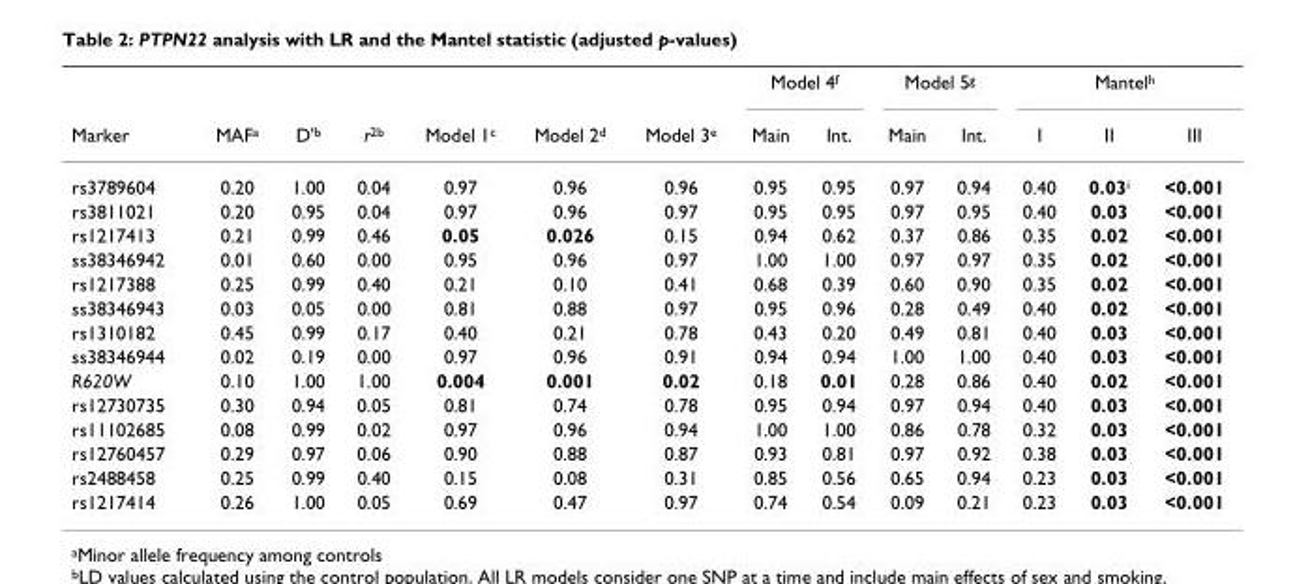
<table><thead><tr><td rowspan="2">Marker</td><td rowspan="2">MAF<sup>a</sup></td><td rowspan="2">D&#x27;<sup>b</sup></td><td rowspan="2">r<sup>2b</sup></td><td rowspan="2">Model 1<sup>c</sup></td><td rowspan="2">Model 2<sup>d</sup></td><td rowspan="2">Model 3<sup>e</sup></td><td colspan="2">Model 4<sup>f</sup></td><td colspan="2">Model 5<sup>g</sup></td><td colspan="3">Mantel<sup>h</sup></td></tr><tr><td>Main</td><td>Int.</td><td>Main</td><td>Int.</td><td>I</td><td>II</td><td>III</td></tr></thead><tbody><tr><td>rs3789604</td><td>0.20</td><td>1.00</td><td>0.04</td><td>0.97</td><td>0.96</td><td>0.96</td><td>0.95</td><td>0.95</td><td>0.97</td><td>0.94</td><td>0.40</td><td>0.03<sup>i</sup></td><td>&lt;0.001</td></tr><tr><td>rs3811021</td><td>0.20</td><td>0.95</td><td>0.04</td><td>0.97</td><td>0.96</td><td>0.97</td><td>0.95</td><td>0.95</td><td>0.97</td><td>0.95</td><td>0.40</td><td>0.03</td><td>&lt;0.001</td></tr><tr><td>rs1217413</td><td>0.21</td><td>0.99</td><td>0.46</td><td>0.05</td><td>0.026</td><td>0.15</td><td>0.94</td><td>0.62</td><td>0.37</td><td>0.86</td><td>0.35</td><td>0.02</td><td>&lt;0.001</td></tr><tr><td>ss38346942</td><td>0.01</td><td>0.60</td><td>0.00</td><td>0.95</td><td>0.96</td><td>0.97</td><td>1.00</td><td>1.00</td><td>0.97</td><td>0.97</td><td>0.35</td><td>0.02</td><td>&lt;0.001</td></tr><tr><td>rs1217388</td><td>0.25</td><td>0.99</td><td>0.40</td><td>0.21</td><td>0.10</td><td>0.41</td><td>0.68</td><td>0.39</td><td>0.60</td><td>0.90</td><td>0.35</td><td>0.02</td><td>&lt;0.001</td></tr><tr><td>ss38346943</td><td>0.03</td><td>0.05</td><td>0.00</td><td>0.81</td><td>0.88</td><td>0.97</td><td>0.95</td><td>0.96</td><td>0.28</td><td>0.49</td><td>0.40</td><td>0.02</td><td>&lt;0.001</td></tr><tr><td>rs1310182</td><td>0.45</td><td>0.99</td><td>0.17</td><td>0.40</td><td>0.21</td><td>0.78</td><td>0.43</td><td>0.20</td><td>0.49</td><td>0.81</td><td>0.40</td><td>0.03</td><td>&lt;0.001</td></tr><tr><td>ss38346944</td><td>0.02</td><td>0.19</td><td>0.00</td><td>0.97</td><td>0.96</td><td>0.91</td><td>0.94</td><td>0.94</td><td>1.00</td><td>1.00</td><td>0.40</td><td>0.03</td><td>&lt;0.001</td></tr><tr><td>R620W</td><td>0.10</td><td>1.00</td><td>1.00</td><td>0.004</td><td>0.001</td><td>0.02</td><td>0.18</td><td>0.01</td><td>0.28</td><td>0.86</td><td>0.40</td><td>0.02</td><td>&lt;0.001</td></tr><tr><td>rs12730735</td><td>0.30</td><td>0.94</td><td>0.05</td><td>0.81</td><td>0.74</td><td>0.78</td><td>0.95</td><td>0.94</td><td>0.97</td><td>0.94</td><td>0.40</td><td>0.03</td><td>&lt;0.001</td></tr><tr><td>rs11102685</td><td>0.08</td><td>0.99</td><td>0.02</td><td>0.97</td><td>0.96</td><td>0.94</td><td>1.00</td><td>1.00</td><td>0.86</td><td>0.78</td><td>0.32</td><td>0.03</td><td>&lt;0.001</td></tr><tr><td>rs12760457</td><td>0.29</td><td>0.97</td><td>0.06</td><td>0.90</td><td>0.88</td><td>0.87</td><td>0.93</td><td>0.81</td><td>0.97</td><td>0.92</td><td>0.38</td><td>0.03</td><td>&lt;0.001</td></tr><tr><td>rs2488458</td><td>0.25</td><td>0.99</td><td>0.40</td><td>0.15</td><td>0.08</td><td>0.31</td><td>0.85</td><td>0.56</td><td>0.65</td><td>0.94</td><td>0.23</td><td>0.03</td><td>&lt;0.001</td></tr><tr><td>rs1217414</td><td>0.26</td><td>1.00</td><td>0.05</td><td>0.69</td><td>0.47</td><td>0.97</td><td>0.74</td><td>0.54</td><td>0.09</td><td>0.21</td><td>0.23</td><td>0.03</td><td>&lt;0.001</td></tr></tbody></table>